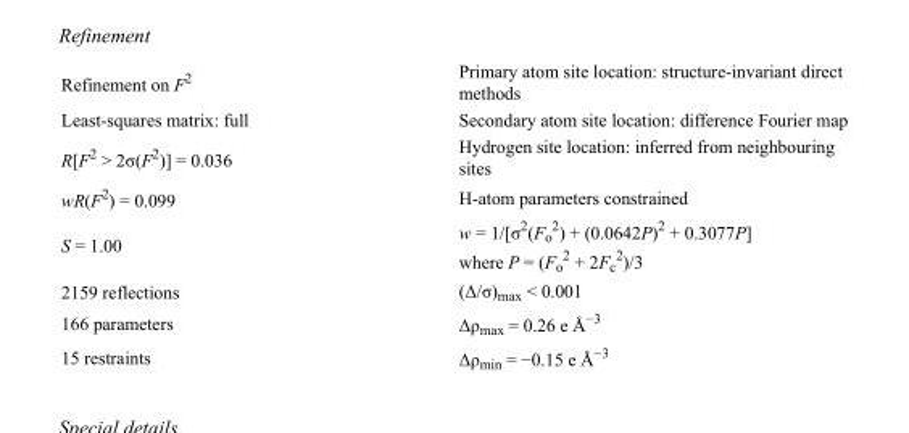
<table><tbody><tr><td>Refinement on F<sup>2</sup></td><td>Primary atom site location: structure-invariant direct methods</td></tr><tr><td>Least-squares matrix: full</td><td>Secondary atom site location: difference Fourier map</td></tr><tr><td>R[F<sup>2</sup> &gt; 2σ(F<sup>2</sup>)] = 0.036</td><td>Hydrogen site location: inferred from neighbouring sites</td></tr><tr><td>wR(F<sup>2</sup>) = 0.099</td><td>H-atom parameters constrained</td></tr><tr><td>S = 1.00</td><td>w = 1/[σ<sup>2</sup>(F<sub>o</sub> <sup>2</sup>) + (0.0642P)<sup>2</sup> + 0.3077P] where P = (F<sub>o</sub> <sup>2</sup> + 2F<sub>c</sub> <sup>2</sup>)/3</td></tr><tr><td>2159 reflections</td><td>(Δ/σ)<sub>max</sub> &lt; 0.001</td></tr><tr><td>166 parameters</td><td>Δρ<sub>max</sub> = 0.26 e Å<sup>−3</sup></td></tr><tr><td>15 restraints</td><td>Δρ<sub>min</sub> = −0.15 e Å<sup>−3</sup></td></tr></tbody></table>